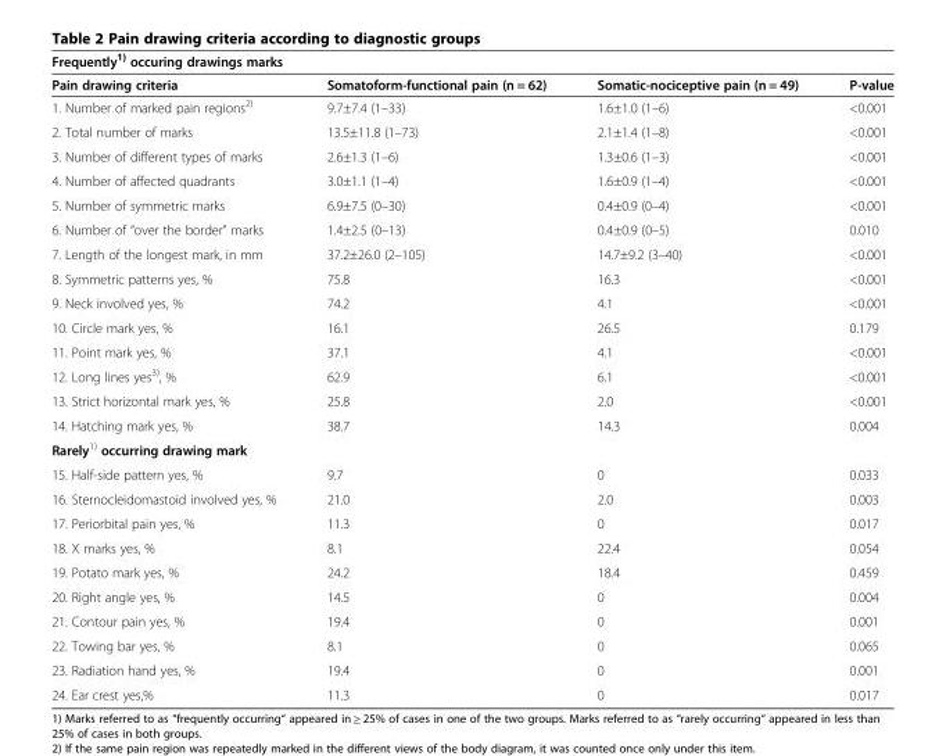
<table><thead><tr><td colspan="4">Frequently<sup>1)</sup> occuring drawings marks</td></tr><tr><td>Pain drawing criteria</td><td>Somatoform-functional pain (n = 62)</td><td>Somatic-nociceptive pain (n = 49)</td><td>P-value</td></tr></thead><tbody><tr><td>1. Number of marked pain regions<sup>2)</sup></td><td>9.7±7.4 (1–33)</td><td>1.6±1.0 (1–6)</td><td>&lt;0.001</td></tr><tr><td>2. Total number of marks</td><td>13.5±11.8 (1–73)</td><td>2.1±1.4 (1–8)</td><td>&lt;0.001</td></tr><tr><td>3. Number of different types of marks</td><td>2.6±1.3 (1–6)</td><td>1.3±0.6 (1–3)</td><td>&lt;0.001</td></tr><tr><td>4. Number of affected quadrants</td><td>3.0±1.1 (1–4)</td><td>1.6±0.9 (1–4)</td><td>&lt;0.001</td></tr><tr><td>5. Number of symmetric marks</td><td>6.9±7.5 (0–30)</td><td>0.4±0.9 (0–4)</td><td>&lt;0.001</td></tr><tr><td>6. Number of “over the border” marks</td><td>1.4±2.5 (0–13)</td><td>0.4±0.9 (0–5)</td><td>0.010</td></tr><tr><td>7. Length of the longest mark, in mm</td><td>37.2±26.0 (2–105)</td><td>14.7±9.2 (3–40)</td><td>&lt;0.001</td></tr><tr><td>8. Symmetric patterns yes, %</td><td>75.8</td><td>16.3</td><td>&lt;0.001</td></tr><tr><td>9. Neck involved yes, %</td><td>74.2</td><td>4.1</td><td>&lt;0.001</td></tr><tr><td>10. Circle mark yes, %</td><td>16.1</td><td>26.5</td><td>0.179</td></tr><tr><td>11. Point mark yes, %</td><td>37.1</td><td>4.1</td><td>&lt;0.001</td></tr><tr><td>12. Long lines yes<sup>3)</sup>, %</td><td>62.9</td><td>6.1</td><td>&lt;0.001</td></tr><tr><td>13. Strict horizontal mark yes, %</td><td>25.8</td><td>2.0</td><td>&lt;0.001</td></tr><tr><td>14. Hatching mark yes, %</td><td>38.7</td><td>14.3</td><td>0.004</td></tr><tr><td colspan="4">Rarely<sup>1)</sup> occurring drawing mark</td></tr><tr><td>15. Half-side pattern yes, %</td><td>9.7</td><td>0</td><td>0.033</td></tr><tr><td>16. Sternocleidomastoid involved yes, %</td><td>21.0</td><td>2.0</td><td>0.003</td></tr><tr><td>17. Periorbital pain yes, %</td><td>11.3</td><td>0</td><td>0.017</td></tr><tr><td>18. X marks yes, %</td><td>8.1</td><td>22.4</td><td>0.054</td></tr><tr><td>19. Potato mark yes, %</td><td>24.2</td><td>18.4</td><td>0.459</td></tr><tr><td>20. Right angle yes, %</td><td>14.5</td><td>0</td><td>0.004</td></tr><tr><td>21. Contour pain yes, %</td><td>19.4</td><td>0</td><td>0.001</td></tr><tr><td>22. Towing bar yes, %</td><td>8.1</td><td>0</td><td>0.065</td></tr><tr><td>23. Radiation hand yes, %</td><td>19.4</td><td>0</td><td>0.001</td></tr><tr><td>24. Ear crest yes,%</td><td>11.3</td><td>0</td><td>0.017</td></tr></tbody></table>